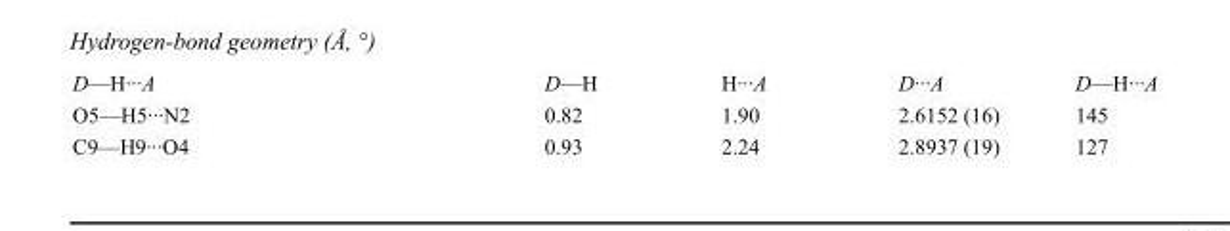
<table><tbody><tr><td>D—H···A</td><td>D—H</td><td>H···A</td><td>D···A</td><td>D—H···A</td></tr><tr><td>O5—H5···N2</td><td>0.82</td><td>1.90</td><td>2.6152 (16)</td><td>145</td></tr><tr><td>C9—H9···O4</td><td>0.93</td><td>2.24</td><td>2.8937 (19)</td><td>127</td></tr></tbody></table>